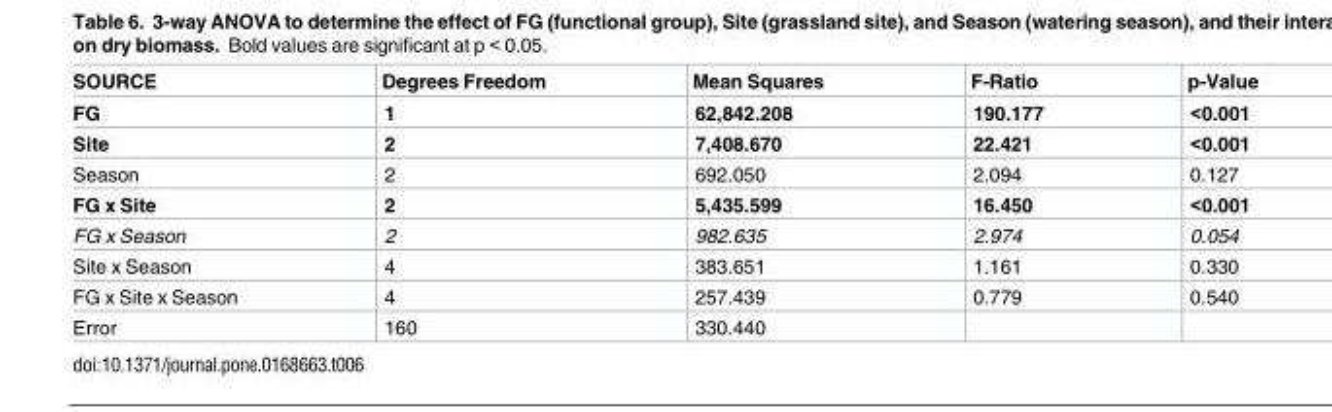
<table><thead><tr><td>SOURCE</td><td>Degrees Freedom</td><td>Mean Squares</td><td>F-Ratio</td><td>p-Value</td></tr></thead><tbody><tr><td>FG</td><td>1</td><td>62,842.208</td><td>190.177</td><td>&lt;0.001</td></tr><tr><td>Site</td><td>2</td><td>7,408.670</td><td>22.421</td><td>&lt;0.001</td></tr><tr><td>Season</td><td>2</td><td>692.050</td><td>2.094</td><td>0.127</td></tr><tr><td>FG x Site</td><td>2</td><td>5,435.599</td><td>16.450</td><td>&lt;0.001</td></tr><tr><td>FG x Season</td><td>2</td><td>982.635</td><td>2.974</td><td>0.054</td></tr><tr><td>Site x Season</td><td>4</td><td>383.651</td><td>1.161</td><td>0.330</td></tr><tr><td>FG x Site x Season</td><td>4</td><td>257.439</td><td>0.779</td><td>0.540</td></tr><tr><td>Error</td><td>160</td><td>330.440</td><td></td><td></td></tr></tbody></table>